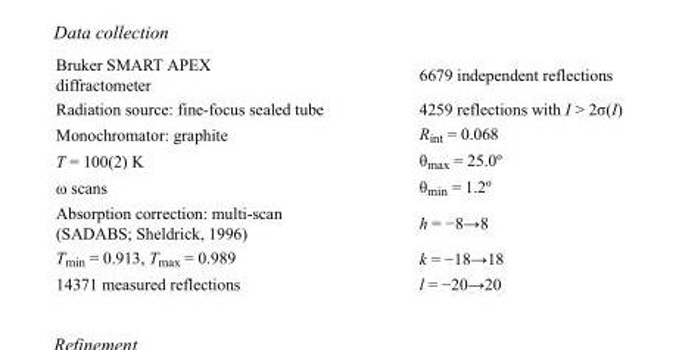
<table><tbody><tr><td>Bruker SMART APEX diffractometer</td><td>6679 independent reflections</td></tr><tr><td>Radiation source: fine-focus sealed tube</td><td>4259 reflections with I &gt; 2σ(I)</td></tr><tr><td>Monochromator: graphite</td><td>R<sub>int</sub> = 0.068</td></tr><tr><td>T = 100(2) K</td><td>θ<sub>max</sub> = 25.0º</td></tr><tr><td>ω scans</td><td>θ<sub>min</sub> = 1.2º</td></tr><tr><td>Absorption correction: multi-scan (SADABS; Sheldrick, 1996)</td><td>h = −8→8</td></tr><tr><td>T<sub>min</sub> = 0.913, T<sub>max</sub> = 0.989</td><td>k = −18→18</td></tr><tr><td>14371 measured reflections</td><td>l = −20→20</td></tr></tbody></table>